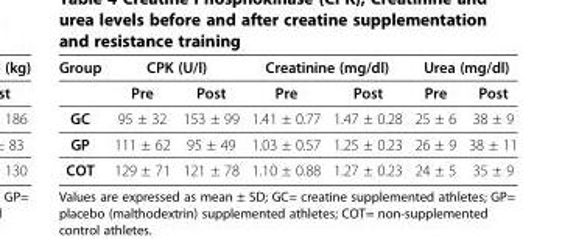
<table><thead><tr><td rowspan="2">Group</td><td colspan="2">CPK (U/l)</td><td colspan="2">Creatinine (mg/dl)</td><td colspan="2">Urea (mg/dl)</td></tr><tr><td>Pre</td><td>Post</td><td>Pre</td><td>Post</td><td>Pre</td><td>Post</td></tr></thead><tbody><tr><td>GC</td><td>95 ± 32</td><td>153 ± 99</td><td>1.41 ± 0.77</td><td>1.47 ± 0.28</td><td>25 ± 6</td><td>38 ± 9</td></tr><tr><td>GP</td><td>111 ± 62</td><td>95 ± 49</td><td>1.03 ± 0.57</td><td>1.25 ± 0.23</td><td>26 ± 9</td><td>38 ± 11</td></tr><tr><td>COT</td><td>129 ± 71</td><td>121 ± 78</td><td>1.10 ± 0.88</td><td>1.27 ± 0.23</td><td>24 ± 5</td><td>35 ± 9</td></tr></tbody></table>